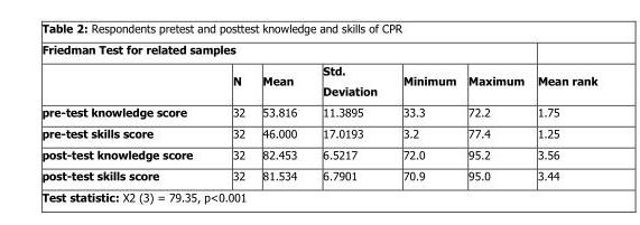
<table><thead><tr><td colspan="6">Friedman Test for related samples</td><td rowspan="2">Mean rank</td></tr><tr><td></td><td>N</td><td>Mean</td><td>Std. Deviation</td><td>Minimum</td><td>Maximum</td></tr></thead><tbody><tr><td>pre-test knowledge score</td><td>32</td><td>53.816</td><td>11.3895</td><td>33.3</td><td>72.2</td><td>1.75</td></tr><tr><td>pre-test skills score</td><td>32</td><td>46.000</td><td>17.0193</td><td>3.2</td><td>77.4</td><td>1.25</td></tr><tr><td>post-test knowledge score</td><td>32</td><td>82.453</td><td>6.5217</td><td>72.0</td><td>95.2</td><td>3.56</td></tr><tr><td>post-test skills score</td><td>32</td><td>81.534</td><td>6.7901</td><td>70.9</td><td>95.0</td><td>3.44</td></tr></tbody></table>